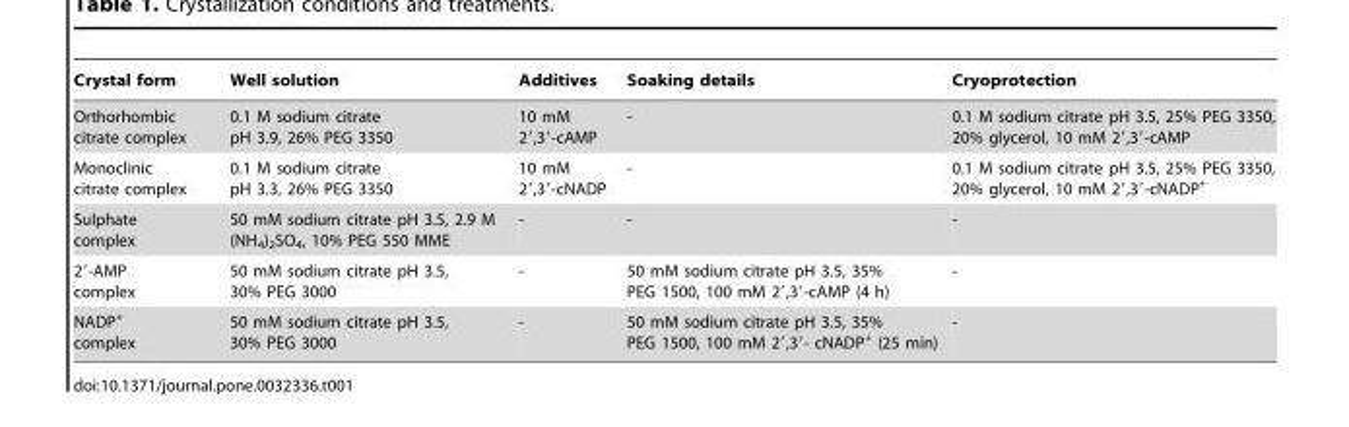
<table><thead><tr><td>Crystal form</td><td>Well solution</td><td>Additives</td><td>Soaking details</td><td>Cryoprotection</td></tr></thead><tbody><tr><td>Orthorhombic citrate complex</td><td>0.1 M sodium citrate pH 3.9, 26% PEG 3350</td><td>10 mM 2′,3′-cAMP</td><td>-</td><td>0.1 M sodium citrate pH 3.5, 25% PEG 3350, 20% glycerol, 10 mM 2′,3′-cAMP</td></tr><tr><td>Monoclinic citrate complex</td><td>0.1 M sodium citrate pH 3.3, 26% PEG 3350</td><td>10 mM 2′,3′-cNADP</td><td>-</td><td>0.1 M sodium citrate pH 3.5, 25% PEG 3350, 20% glycerol, 10 mM 2′,3′-cNADP<sup>+</sup></td></tr><tr><td>Sulphate complex</td><td>50 mM sodium citrate pH 3.5, 2.9 M (NH<sub>4</sub>)<sub>2</sub>SO<sub>4</sub>, 10% PEG 550 MME</td><td>-</td><td>-</td><td>-</td></tr><tr><td>2′-AMP complex</td><td>50 mM sodium citrate pH 3.5, 30% PEG 3000</td><td>-</td><td>50 mM sodium citrate pH 3.5, 35% PEG 1500, 100 mM 2′,3′-cAMP (4 h)</td><td>-</td></tr><tr><td>NADP<sup>+</sup> complex</td><td>50 mM sodium citrate pH 3.5, 30% PEG 3000</td><td>-</td><td>50 mM sodium citrate pH 3.5, 35% PEG 1500, 100 mM 2′,3′- cNADP<sup>+</sup> (25 min)</td><td>-</td></tr></tbody></table>